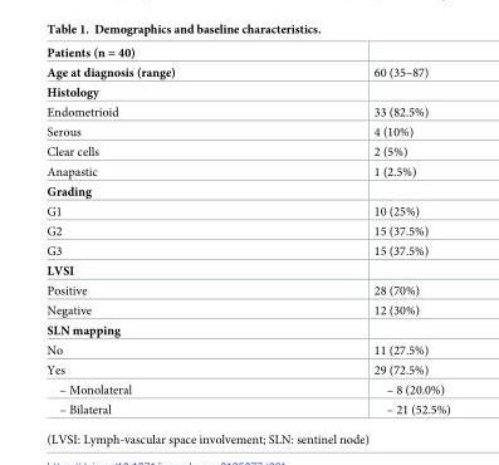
<table><tbody><tr><td colspan="2">Patients (n = 40)</td></tr><tr><td>Age at diagnosis (range)</td><td>60 (35–87)</td></tr><tr><td colspan="2">Histology</td></tr><tr><td>Endometrioid</td><td>33 (82.5%)</td></tr><tr><td>Serous</td><td>4 (10%)</td></tr><tr><td>Clear cells</td><td>2 (5%)</td></tr><tr><td>Anapastic</td><td>1 (2.5%)</td></tr><tr><td colspan="2">Grading</td></tr><tr><td>G1</td><td>10 (25%)</td></tr><tr><td>G2</td><td>15 (37.5%)</td></tr><tr><td>G3</td><td>15 (37.5%)</td></tr><tr><td colspan="2">LVSI</td></tr><tr><td>Positive</td><td>28 (70%)</td></tr><tr><td>Negative</td><td>12 (30%)</td></tr><tr><td colspan="2">SLN mapping</td></tr><tr><td>No</td><td>11 (27.5%)</td></tr><tr><td>Yes</td><td>29 (72.5%)</td></tr><tr><td>– Monolateral</td><td>– 8 (20.0%)</td></tr><tr><td>– Bilateral</td><td>– 21 (52.5%)</td></tr></tbody></table>